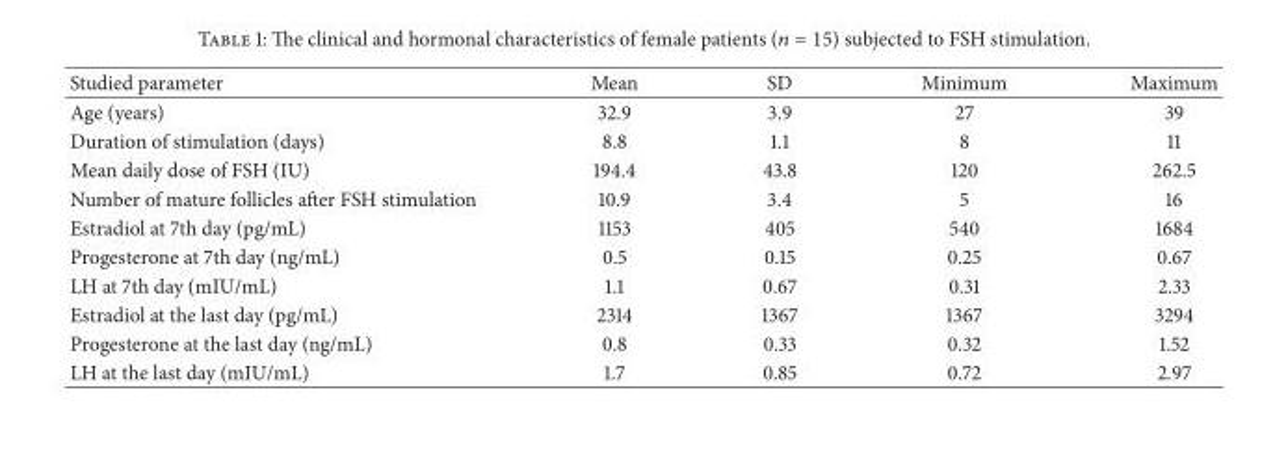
<table><thead><tr><td>Studied parameter</td><td>Mean</td><td>SD</td><td>Minimum</td><td>Maximum</td></tr></thead><tbody><tr><td>Age (years)</td><td>32.9</td><td>3.9</td><td>27</td><td>39</td></tr><tr><td>Duration of stimulation (days)</td><td>8.8</td><td>1.1</td><td>8</td><td>11</td></tr><tr><td>Mean daily dose of FSH (IU)</td><td>194.4</td><td>43.8</td><td>120</td><td>262.5</td></tr><tr><td>Number of mature follicles after FSH stimulation</td><td>10.9</td><td>3.4</td><td>5</td><td>16</td></tr><tr><td>Estradiol at 7th day (pg/mL)</td><td>1153</td><td>405</td><td>540</td><td>1684</td></tr><tr><td>Progesterone at 7th day (ng/mL)</td><td>0.5</td><td>0.15</td><td>0.25</td><td>0.67</td></tr><tr><td>LH at 7th day (mIU/mL)</td><td>1.1</td><td>0.67</td><td>0.31</td><td>2.33</td></tr><tr><td>Estradiol at the last day (pg/mL)</td><td>2314</td><td>1367</td><td>1367</td><td>3294</td></tr><tr><td>Progesterone at the last day (ng/mL)</td><td>0.8</td><td>0.33</td><td>0.32</td><td>1.52</td></tr><tr><td>LH at the last day (mIU/mL)</td><td>1.7</td><td>0.85</td><td>0.72</td><td>2.97</td></tr></tbody></table>